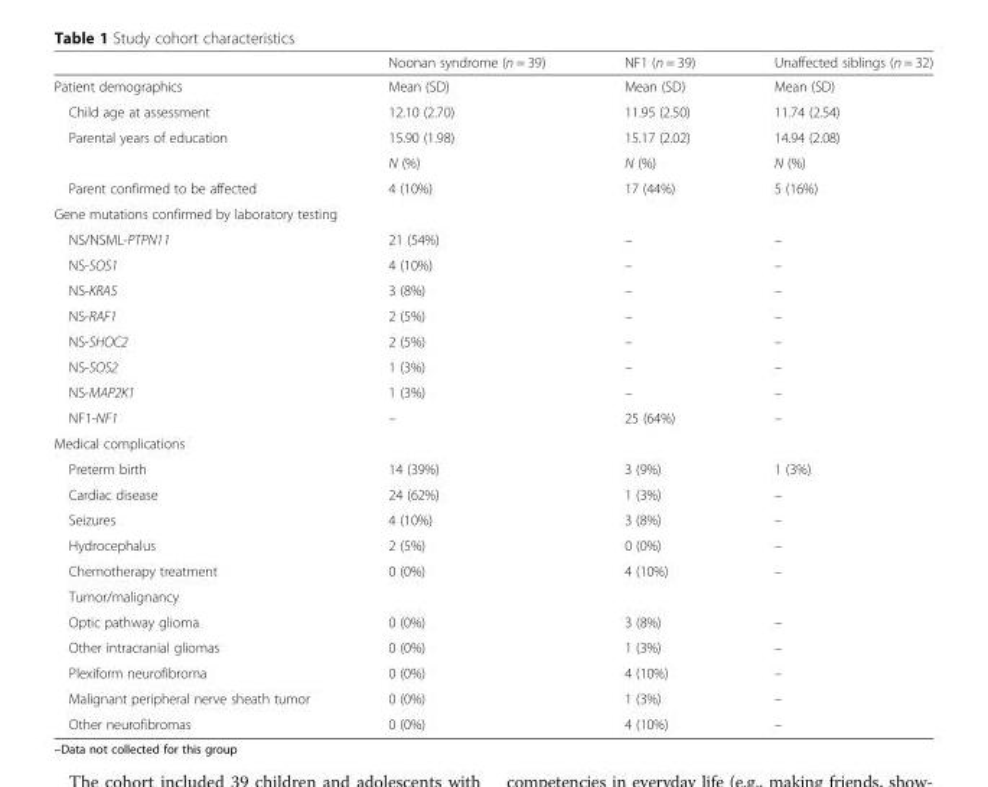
<table><thead><tr><td></td><td>Noonan syndrome (n = 39)</td><td>NF1 (n = 39)</td><td>Unaffected siblings (n = 32)</td></tr></thead><tbody><tr><td>Patient demographics</td><td>Mean (SD)</td><td>Mean (SD)</td><td>Mean (SD)</td></tr><tr><td>Child age at assessment</td><td>12.10 (2.70)</td><td>11.95 (2.50)</td><td>11.74 (2.54)</td></tr><tr><td rowspan="2">Parental years of education</td><td>15.90 (1.98)</td><td>15.17 (2.02)</td><td>14.94 (2.08)</td></tr><tr><td>N (%)</td><td>N (%)</td><td>N (%)</td></tr><tr><td>Parent confirmed to be affected</td><td>4 (10%)</td><td>17 (44%)</td><td>5 (16%)</td></tr><tr><td colspan="4">Gene mutations confirmed by laboratory testing</td></tr><tr><td>NS/NSML-PTPN11</td><td>21 (54%)</td><td>–</td><td>–</td></tr><tr><td>NS-SOS1</td><td>4 (10%)</td><td>–</td><td>–</td></tr><tr><td>NS-KRAS</td><td>3 (8%)</td><td>–</td><td>–</td></tr><tr><td>NS-RAF1</td><td>2 (5%)</td><td>–</td><td>–</td></tr><tr><td>NS-SHOC2</td><td>2 (5%)</td><td>–</td><td>–</td></tr><tr><td>NS-SOS2</td><td>1 (3%)</td><td>–</td><td>–</td></tr><tr><td>NS-MAP2K1</td><td>1 (3%)</td><td>–</td><td>–</td></tr><tr><td>NF1-NF1</td><td>–</td><td>25 (64%)</td><td>–</td></tr><tr><td colspan="4">Medical complications</td></tr><tr><td>Preterm birth</td><td>14 (39%)</td><td>3 (9%)</td><td>1 (3%)</td></tr><tr><td>Cardiac disease</td><td>24 (62%)</td><td>1 (3%)</td><td>–</td></tr><tr><td>Seizures</td><td>4 (10%)</td><td>3 (8%)</td><td>–</td></tr><tr><td>Hydrocephalus</td><td>2 (5%)</td><td>0 (0%)</td><td>–</td></tr><tr><td>Chemotherapy treatment</td><td>0 (0%)</td><td>4 (10%)</td><td>–</td></tr><tr><td colspan="4">Tumor/malignancy</td></tr><tr><td>Optic pathway glioma</td><td>0 (0%)</td><td>3 (8%)</td><td>–</td></tr><tr><td>Other intracranial gliomas</td><td>0 (0%)</td><td>1 (3%)</td><td>–</td></tr><tr><td>Plexiform neurofibroma</td><td>0 (0%)</td><td>4 (10%)</td><td>–</td></tr><tr><td>Malignant peripheral nerve sheath tumor</td><td>0 (0%)</td><td>1 (3%)</td><td>–</td></tr><tr><td>Other neurofibromas</td><td>0 (0%)</td><td>4 (10%)</td><td>–</td></tr></tbody></table>